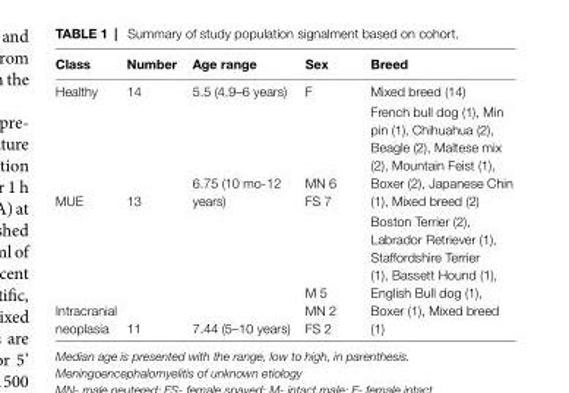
<table><thead><tr><td>class</td><td>number</td><td>age range</td><td>sex</td><td>Breed</td></tr></thead><tbody><tr><td>Healthy</td><td>14</td><td>5.5 (4.9–6 years)</td><td>F</td><td>Mixed breed (14)</td></tr><tr><td>MUE</td><td>13</td><td>6.75 (10 mo-12 years)</td><td>MN 6 FS 7</td><td>French bull dog (1), Min pin (1), Chihuahua (2), Beagle (2), Maltese mix (2), Mountain Feist (1), Boxer (2), Japanese Chin (1), Mixed breed (2)</td></tr><tr><td>Intracranial neoplasia</td><td>11</td><td>7.44 (5–10 years)</td><td>M 5 MN 2 FS 2</td><td>Boston Terrier (2), Labrador Retriever (1), Staffordshire Terrier (1), Bassett Hound (1), English Bull dog (1), Boxer (1), Mixed breed (1)</td></tr></tbody></table>